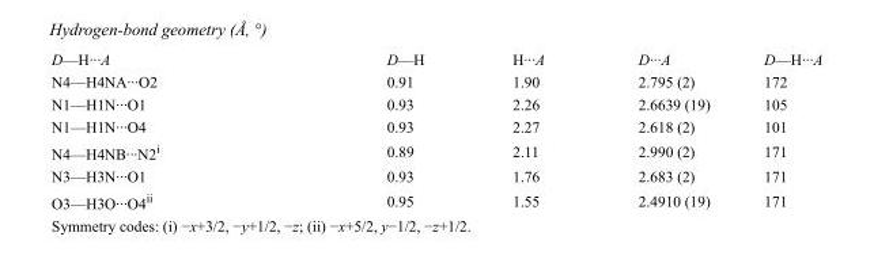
<table><tbody><tr><td>D—H···A</td><td>D—H</td><td>H···A</td><td>D···A</td><td>D—H···A</td></tr><tr><td>N4—H4NA···O2</td><td>0.91</td><td>1.90</td><td>2.795 (2)</td><td>172</td></tr><tr><td>N1—H1N···O1</td><td>0.93</td><td>2.26</td><td>2.6639 (19)</td><td>105</td></tr><tr><td>N1—H1N···O4</td><td>0.93</td><td>2.27</td><td>2.618 (2)</td><td>101</td></tr><tr><td>N4—H4NB···N2<sup>i</sup></td><td>0.89</td><td>2.11</td><td>2.990 (2)</td><td>171</td></tr><tr><td>N3—H3N···O1</td><td>0.93</td><td>1.76</td><td>2.683 (2)</td><td>171</td></tr><tr><td>O3—H3O···O4<sup>ii</sup></td><td>0.95</td><td>1.55</td><td>2.4910 (19)</td><td>171</td></tr></tbody></table>